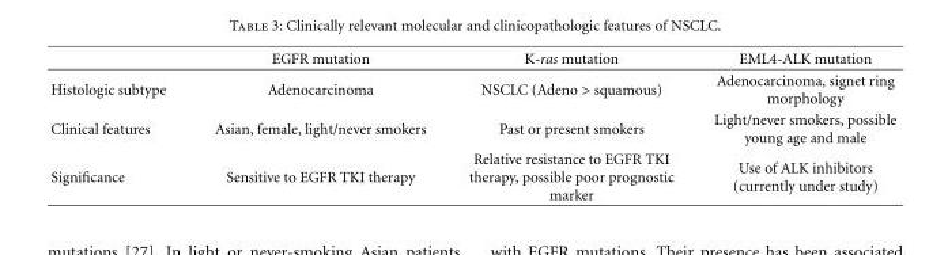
<table><thead><tr><td></td><td>EGFR mutation</td><td>K-ras mutation</td><td>EML4-ALK mutation</td></tr></thead><tbody><tr><td>Histologic subtype</td><td>Adenocarcinoma</td><td>NSCLC (Adeno &gt; squamous)</td><td>Adenocarcinoma, signet ring morphology</td></tr><tr><td>Clinical features</td><td>Asian, female, light/never smokers</td><td>Past or present smokers</td><td>Light/never smokers, possible young age and male</td></tr><tr><td>Significance</td><td>Sensitive to EGFR TKI therapy</td><td>Relative resistance to EGFR TKI therapy, possible poor prognostic marker</td><td>Use of ALK inhibitors (currently under study)</td></tr></tbody></table>